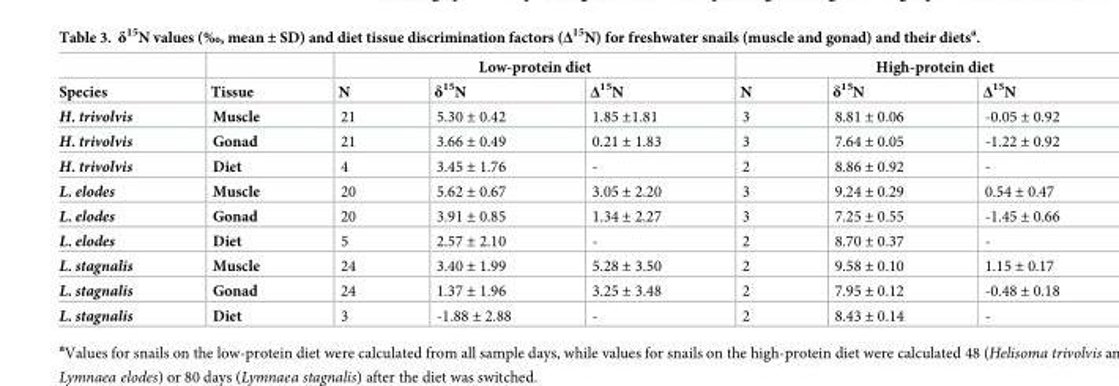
<table><thead><tr><td rowspan="2">Species</td><td rowspan="2">Tissue</td><td colspan="3">Low-protein diet</td><td colspan="3">High-protein diet</td></tr><tr><td>N</td><td>δ<sup>15</sup>N</td><td>Δ<sup>15</sup>N</td><td>N</td><td>δ<sup>15</sup>N</td><td>Δ<sup>15</sup>N</td></tr></thead><tbody><tr><td>H. trivolvis</td><td>Muscle</td><td>21</td><td>5.30 ± 0.42</td><td>1.85 ±1.81</td><td>3</td><td>8.81 ± 0.06</td><td>-0.05 ± 0.92</td></tr><tr><td>H. trivolvis</td><td>Gonad</td><td>21</td><td>3.66 ± 0.49</td><td>0.21 ± 1.83</td><td>3</td><td>7.64 ± 0.05</td><td>-1.22 ± 0.92</td></tr><tr><td>H. trivolvis</td><td>Diet</td><td>4</td><td>3.45 ± 1.76</td><td>-</td><td>2</td><td>8.86 ± 0.92</td><td>-</td></tr><tr><td>L. elodes</td><td>Muscle</td><td>20</td><td>5.62 ± 0.67</td><td>3.05 ± 2.20</td><td>3</td><td>9.24 ± 0.29</td><td>0.54 ± 0.47</td></tr><tr><td>L. elodes</td><td>Gonad</td><td>20</td><td>3.91 ± 0.85</td><td>1.34 ± 2.27</td><td>3</td><td>7.25 ± 0.55</td><td>-1.45 ± 0.66</td></tr><tr><td>L. elodes</td><td>Diet</td><td>5</td><td>2.57 ± 2.10</td><td>-</td><td>2</td><td>8.70 ± 0.37</td><td>-</td></tr><tr><td>L. stagnalis</td><td>Muscle</td><td>24</td><td>3.40 ± 1.99</td><td>5.28 ± 3.50</td><td>2</td><td>9.58 ± 0.10</td><td>1.15 ± 0.17</td></tr><tr><td>L. stagnalis</td><td>Gonad</td><td>24</td><td>1.37 ± 1.96</td><td>3.25 ± 3.48</td><td>2</td><td>7.95 ± 0.12</td><td>-0.48 ± 0.18</td></tr><tr><td>L. stagnalis</td><td>Diet</td><td>3</td><td>-1.88 ± 2.88</td><td>-</td><td>2</td><td>8.43 ± 0.14</td><td>-</td></tr></tbody></table>